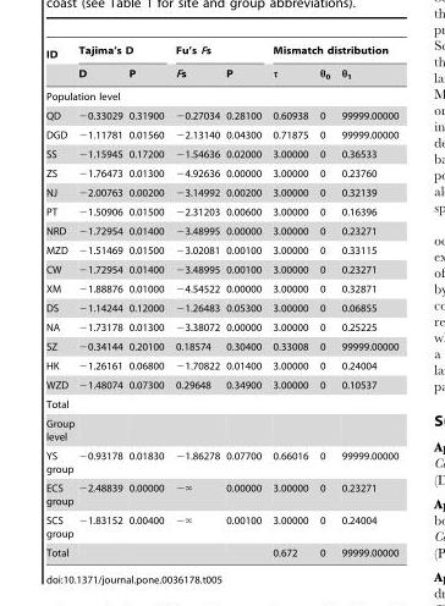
<table><thead><tr><td rowspan="2">ID</td><td colspan="2">Tajima’s D</td><td colspan="2">Fu’s Fs</td><td colspan="3">Mismatch distribution</td></tr><tr><td>D</td><td>P</td><td>Fs</td><td>P</td><td>τ</td><td>θ<sub>0</sub></td><td>θ<sub>1</sub></td></tr></thead><tbody><tr><td colspan="8">Population level</td></tr><tr><td>QD</td><td>−0.33029</td><td>0.31900</td><td>−0.27034</td><td>0.28100</td><td>0.60938</td><td>0</td><td>99999.00000</td></tr><tr><td>DGD</td><td>−1.11781</td><td>0.01560</td><td>−2.13140</td><td>0.04300</td><td>0.71875</td><td>0</td><td>99999.00000</td></tr><tr><td>SS</td><td>−1.15945</td><td>0.17200</td><td>−1.54636</td><td>0.02000</td><td>3.00000</td><td>0</td><td>0.36533</td></tr><tr><td>ZS</td><td>−1.76473</td><td>0.01300</td><td>−4.92636</td><td>0.00000</td><td>3.00000</td><td>0</td><td>0.23760</td></tr><tr><td>NJ</td><td>−2.00763</td><td>0.00200</td><td>−3.14992</td><td>0.00200</td><td>3.00000</td><td>0</td><td>0.32139</td></tr><tr><td>PT</td><td>−1.50906</td><td>0.01500</td><td>−2.31203</td><td>0.00600</td><td>3.00000</td><td>0</td><td>0.16396</td></tr><tr><td>NRD</td><td>−1.72954</td><td>0.01400</td><td>−3.48995</td><td>0.00000</td><td>3.00000</td><td>0</td><td>0.23271</td></tr><tr><td>MZD</td><td>−1.51469</td><td>0.01500</td><td>−3.02081</td><td>0.00100</td><td>3.00000</td><td>0</td><td>0.33115</td></tr><tr><td>CW</td><td>−1.72954</td><td>0.01400</td><td>−3.48995</td><td>0.00100</td><td>3.00000</td><td>0</td><td>0.23271</td></tr><tr><td>XM</td><td>−1.88876</td><td>0.01000</td><td>−4.54522</td><td>0.00000</td><td>3.00000</td><td>0</td><td>0.32871</td></tr><tr><td>DS</td><td>−1.14244</td><td>0.12000</td><td>−1.26483</td><td>0.05300</td><td>3.00000</td><td>0</td><td>0.06855</td></tr><tr><td>NA</td><td>−1.73178</td><td>0.01300</td><td>−3.38072</td><td>0.00000</td><td>3.00000</td><td>0</td><td>0.25225</td></tr><tr><td>SZ</td><td>−0.34144</td><td>0.20100</td><td>0.18574</td><td>0.30400</td><td>0.33008</td><td>0</td><td>99999.00000</td></tr><tr><td>HK</td><td>−1.26161</td><td>0.06800</td><td>−1.70822</td><td>0.01400</td><td>3.00000</td><td>0</td><td>0.24004</td></tr><tr><td>WZD</td><td>−1.48074</td><td>0.07300</td><td>0.29648</td><td>0.34900</td><td>3.00000</td><td>0</td><td>0.10537</td></tr><tr><td colspan="8">Total</td></tr><tr><td colspan="8">Group level</td></tr><tr><td>YS group</td><td>−0.93178</td><td>0.01830</td><td>−1.86278</td><td>0.07700</td><td>0.66016</td><td>0</td><td>99999.00000</td></tr><tr><td>ECS group</td><td>−2.48839</td><td>0.00000</td><td>2‘</td><td>0.00000</td><td>3.00000</td><td>0</td><td>0.23271</td></tr><tr><td>SCS group</td><td>−1.83152</td><td>0.00400</td><td>2‘</td><td>0.00100</td><td>3.00000</td><td>0</td><td>0.24004</td></tr><tr><td>Total</td><td></td><td></td><td></td><td></td><td>0.672</td><td>0</td><td>99999.00000</td></tr></tbody></table>